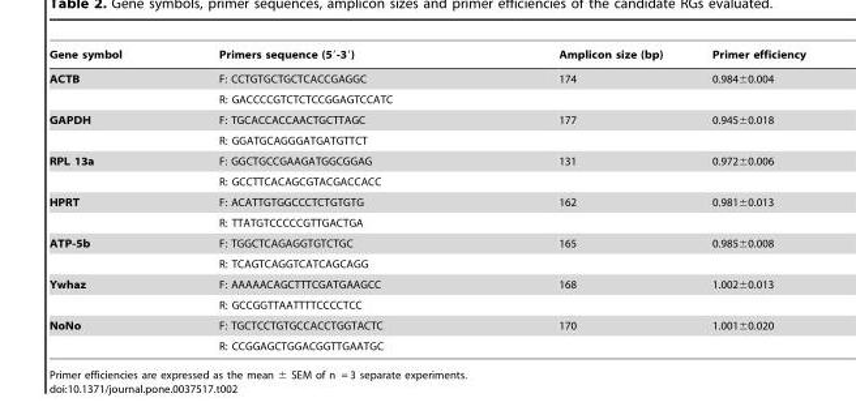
<table><thead><tr><td>Gene symbol</td><td>Primers sequence (5′-3′)</td><td>Amplicon size (bp)</td><td>Primer efficiency</td></tr></thead><tbody><tr><td rowspan="2">ACTB</td><td>F: CCTGTGCTGCTCACCGAGGC</td><td>174</td><td>0.984±0.004</td></tr><tr><td>R: GACCCCGTCTCTCCGGAGTCCATC</td><td></td><td></td></tr><tr><td rowspan="2">GAPDH</td><td>F: TGCACCACCAACTGCTTAGC</td><td>177</td><td>0.945±0.018</td></tr><tr><td>R: GGATGCAGGGATGATGTTCT</td><td></td><td></td></tr><tr><td rowspan="2">RPL 13a</td><td>F: GGCTGCCGAAGATGGCGGAG</td><td>131</td><td>0.972±0.006</td></tr><tr><td>R: GCCTTCACAGCGTACGACCACC</td><td></td><td></td></tr><tr><td rowspan="2">HPRT</td><td>F: ACATTGTGGCCCTCTGTGTG</td><td>162</td><td>0.981±0.013</td></tr><tr><td>R: TTATGTCCCCCGTTGACTGA</td><td></td><td></td></tr><tr><td rowspan="2">ATP-5b</td><td>F: TGGCTCAGAGGTGTCTGC</td><td>165</td><td>0.985±0.008</td></tr><tr><td>R: TCAGTCAGGTCATCAGCAGG</td><td></td><td></td></tr><tr><td rowspan="2">Ywhaz</td><td>F: AAAAACAGCTTTCGATGAAGCC</td><td>168</td><td>1.002±0.013</td></tr><tr><td>R: GCCGGTTAATTTTCCCCTCC</td><td></td><td></td></tr><tr><td rowspan="2">NoNo</td><td>F: TGCTCCTGTGCCACCTGGTACTC</td><td>170</td><td>1.001±0.020</td></tr><tr><td>R: CCGGAGCTGGACGGTTGAATGC</td><td></td><td></td></tr></tbody></table>